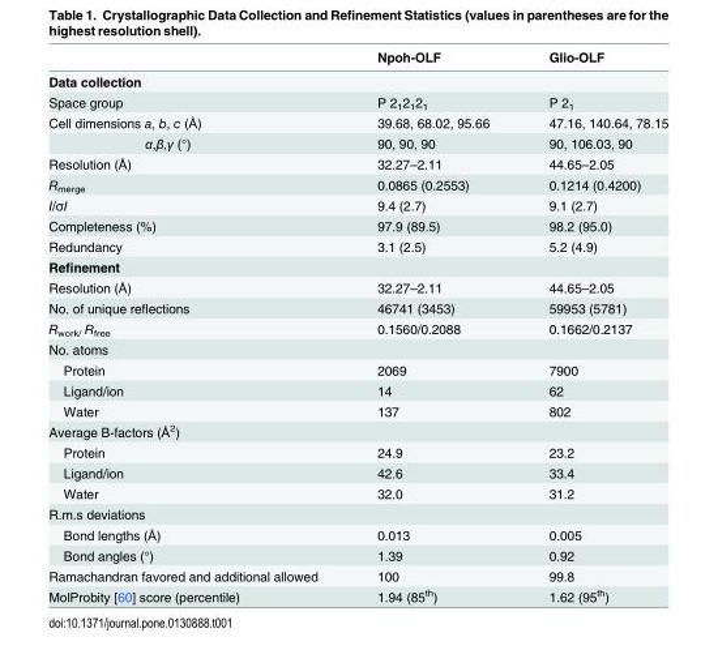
<table><thead><tr><td></td><td>Npoh-OLF</td><td>Glio-OLF</td></tr></thead><tbody><tr><td colspan="3">Data collection</td></tr><tr><td>Space group</td><td>P 2<sub>1</sub>2<sub>1</sub>2<sub>1</sub></td><td>P 2<sub>1</sub></td></tr><tr><td>Cell dimensions a, b, c (Å)</td><td>39.68, 68.02, 95.66</td><td>47.16, 140.64, 78.15</td></tr><tr><td>α,β,γ (°)</td><td>90, 90, 90</td><td>90, 106.03, 90</td></tr><tr><td>Resolution (Å)</td><td>32.27–2.11</td><td>44.65–2.05</td></tr><tr><td>R<sub>merge</sub></td><td>0.0865 (0.2553)</td><td>0.1214 (0.4200)</td></tr><tr><td>I/σI</td><td>9.4 (2.7)</td><td>9.1 (2.7)</td></tr><tr><td>Completeness (%)</td><td>97.9 (89.5)</td><td>98.2 (95.0)</td></tr><tr><td>Redundancy</td><td>3.1 (2.5)</td><td>5.2 (4.9)</td></tr><tr><td colspan="3">Refinement</td></tr><tr><td>Resolution (Å)</td><td>32.27–2.11</td><td>44.65–2.05</td></tr><tr><td>No. of unique reflections</td><td>46741 (3453)</td><td>59953 (5781)</td></tr><tr><td>R<sub>work/</sub> R<sub>free</sub></td><td>0.1560/0.2088</td><td>0.1662/0.2137</td></tr><tr><td colspan="3">No. atoms</td></tr><tr><td>Protein</td><td>2069</td><td>7900</td></tr><tr><td>Ligand/ion</td><td>14</td><td>62</td></tr><tr><td>Water</td><td>137</td><td>802</td></tr><tr><td colspan="3">Average B-factors (Å<sup>2</sup>)</td></tr><tr><td>Protein</td><td>24.9</td><td>23.2</td></tr><tr><td>Ligand/ion</td><td>42.6</td><td>33.4</td></tr><tr><td>Water</td><td>32.0</td><td>31.2</td></tr><tr><td colspan="3">R.m.s deviations</td></tr><tr><td>Bond lengths (Å)</td><td>0.013</td><td>0.005</td></tr><tr><td>Bond angles (°)</td><td>1.39</td><td>0.92</td></tr><tr><td>Ramachandran favored and additional allowed</td><td>100</td><td>99.8</td></tr><tr><td>MolProbity [60] score (percentile)</td><td>1.94 (85<sup>th</sup>)</td><td>1.62 (95<sup>th</sup>)</td></tr></tbody></table>